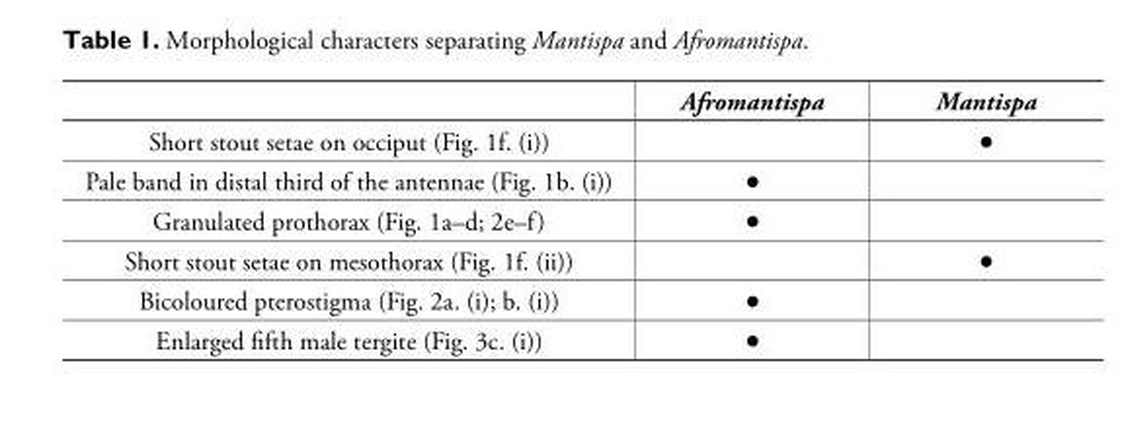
<table><thead><tr><td></td><td>Afromantispa</td><td>Mantispa</td></tr></thead><tbody><tr><td>Short stout setae on occiput (Fig. 1f. (i))</td><td></td><td>●</td></tr><tr><td>Pale band in distal third of the antennae (Fig. 1b. (i))</td><td>●</td><td></td></tr><tr><td>Granulated prothorax (Fig. 1a–d; 2e–f)</td><td>●</td><td></td></tr><tr><td>Short stout setae on mesothorax (Fig. 1f. (ii))</td><td></td><td>●</td></tr><tr><td>Bicoloured pterostigma (Fig. 2a. (i); b. (i))</td><td>●</td><td></td></tr><tr><td>Enlarged fifth male tergite (Fig. 3c. (i))</td><td>●</td><td></td></tr></tbody></table>